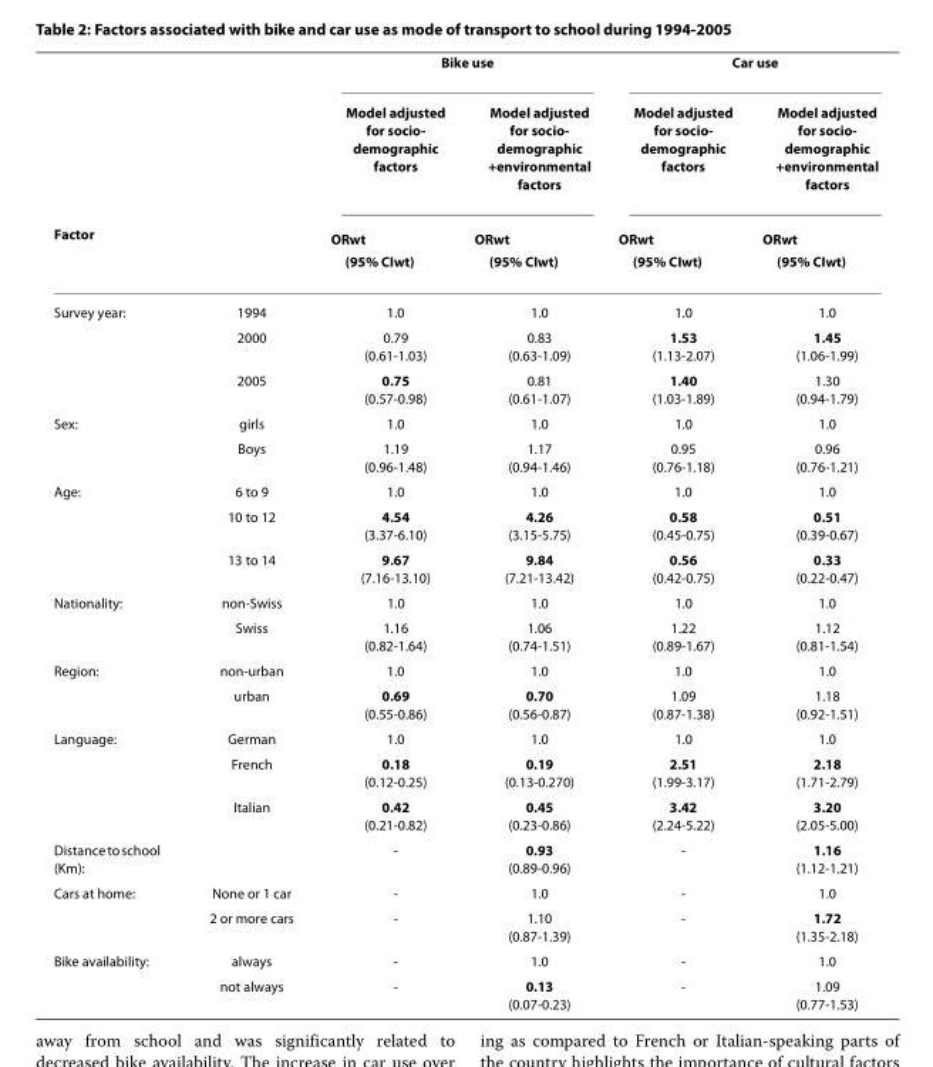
<table><thead><tr><td rowspan="3">Factor</td><td rowspan="3"></td><td colspan="2">Bike use</td><td colspan="2">Car use</td></tr><tr><td rowspan="2">Model adjusted for socio- demographic factors OR<sub>wt</sub> (95% CI<sub>wt</sub>)</td><td rowspan="2">Model adjusted for socio- demographic +environmental factors OR<sub>wt</sub> (95% CI<sub>wt</sub>)</td><td rowspan="2">Model adjusted for socio- demographic factors OR<sub>wt</sub> (95% CI<sub>wt</sub>)</td><td rowspan="2">Model adjusted for socio- demographic +environmental factors OR<sub>wt</sub> (95% CI<sub>wt</sub>)</td></tr><tr></tr></thead><tbody><tr><td rowspan="3">Survey year:</td><td>1994</td><td>1.0</td><td>1.0</td><td>1.0</td><td>1.0</td></tr><tr><td>2000</td><td>0.79 (0.61-1.03)</td><td>0.83 (0.63-1.09)</td><td>1.53 (1.13-2.07)</td><td>1.45 (1.06-1.99)</td></tr><tr><td>2005</td><td>0.75 (0.57-0.98)</td><td>0.81 (0.61-1.07)</td><td>1.40 (1.03-1.89)</td><td>1.30 (0.94-1.79)</td></tr><tr><td rowspan="2">Sex:</td><td>girls</td><td>1.0</td><td>1.0</td><td>1.0</td><td>1.0</td></tr><tr><td>Boys</td><td>1.19 (0.96-1.48)</td><td>1.17 (0.94-1.46)</td><td>0.95 (0.76-1.18)</td><td>0.96 (0.76-1.21)</td></tr><tr><td rowspan="3">Age:</td><td>6 to 9</td><td>1.0</td><td>1.0</td><td>1.0</td><td>1.0</td></tr><tr><td>10 to 12</td><td>4.54 (3.37-6.10)</td><td>4.26 (3.15-5.75)</td><td>0.58 (0.45-0.75)</td><td>0.51 (0.39-0.67)</td></tr><tr><td>13 to 14</td><td>9.67 (7.16-13.10)</td><td>9.84 (7.21-13.42)</td><td>0.56 (0.42-0.75)</td><td>0.33 (0.22-0.47)</td></tr><tr><td rowspan="2">Nationality:</td><td>non-Swiss</td><td>1.0</td><td>1.0</td><td>1.0</td><td>1.0</td></tr><tr><td>Swiss</td><td>1.16 (0.82-1.64)</td><td>1.06 (0.74-1.51)</td><td>1.22 (0.89-1.67)</td><td>1.12 (0.81-1.54)</td></tr><tr><td rowspan="2">Region:</td><td>non-urban</td><td>1.0</td><td>1.0</td><td>1.0</td><td>1.0</td></tr><tr><td>urban</td><td>0.69 (0.55-0.86)</td><td>0.70 (0.56-0.87)</td><td>1.09 (0.87-1.38)</td><td>1.18 (0.92-1.51)</td></tr><tr><td rowspan="3">Language:</td><td>German</td><td>1.0</td><td>1.0</td><td>1.0</td><td>1.0</td></tr><tr><td>French</td><td>0.18 (0.12-0.25)</td><td>0.19 (0.13-0.270)</td><td>2.51 (1.99-3.17)</td><td>2.18 (1.71-2.79)</td></tr><tr><td>Italian</td><td>0.42 (0.21-0.82)</td><td>0.45 (0.23-0.86)</td><td>3.42 (2.24-5.22)</td><td>3.20 (2.05-5.00)</td></tr><tr><td>Distance to school (Km):</td><td></td><td>-</td><td>0.93 (0.89-0.96)</td><td>-</td><td>1.16 (1.12-1.21)</td></tr><tr><td rowspan="2">Cars at home:</td><td>None or 1 car</td><td>-</td><td>1.0</td><td>-</td><td>1.0</td></tr><tr><td>2 or more cars</td><td>-</td><td>1.10 (0.87-1.39)</td><td>-</td><td>1.72 (1.35-2.18)</td></tr><tr><td rowspan="2">Bike availability:</td><td>always</td><td>-</td><td>1.0</td><td>-</td><td>1.0</td></tr><tr><td>not always</td><td>-</td><td>0.13 (0.07-0.23)</td><td>-</td><td>1.09 (0.77-1.53)</td></tr></tbody></table>